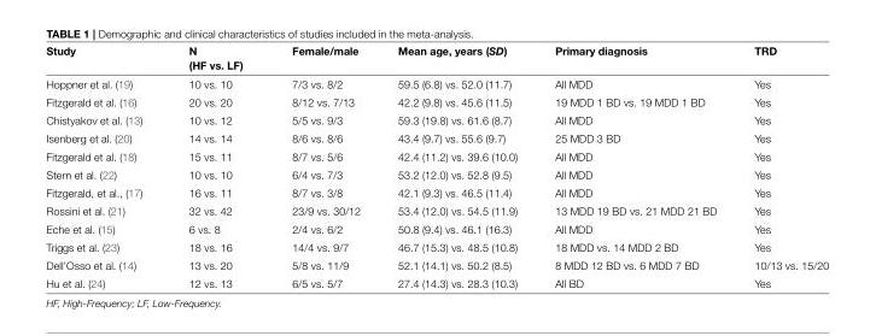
<table><thead><tr><td>Study</td><td>N (HF vs. LF)</td><td>Female/male</td><td>Mean age, years (SD)</td><td>Primary diagnosis</td><td>TRD</td></tr></thead><tbody><tr><td>Hoppner et al. (19)</td><td>10 vs. 10</td><td>7/3 vs. 8/2</td><td>59.5 (6.8) vs. 52.0 (11.7)</td><td>All MDD</td><td>Yes</td></tr><tr><td>Fitzgerald et al. (16)</td><td>20 vs. 20</td><td>8/12 vs. 7/13</td><td>42.2 (9.8) vs. 45.6 (11.5)</td><td>19 MDD 1 BD vs. 19 MDD 1 BD</td><td>Yes</td></tr><tr><td>Chistyakov et al. (13)</td><td>10 vs. 12</td><td>5/5 vs. 9/3</td><td>59.3 (19.8) vs. 61.6 (8.7)</td><td>All MDD</td><td>Yes</td></tr><tr><td>Isenberg et al. (20)</td><td>14 vs. 14</td><td>8/6 vs. 8/6</td><td>43.4 (9.7) vs. 55.6 (9.7)</td><td>25 MDD 3 BD</td><td>Yes</td></tr><tr><td>Fitzgerald et al. (18)</td><td>15 vs. 11</td><td>8/7 vs. 5/6</td><td>42.4 (11.2) vs. 39.6 (10.0)</td><td>All MDD</td><td>Yes</td></tr><tr><td>Stern et al. (22)</td><td>10 vs. 10</td><td>6/4 vs. 7/3</td><td>53.2 (12.0) vs. 52.8 (9.5)</td><td>All MDD</td><td>Yes</td></tr><tr><td>Fitzgerald, et al., (17)</td><td>16 vs. 11</td><td>8/7 vs. 3/8</td><td>42.1 (9.3) vs. 46.5 (11.4)</td><td>All MDD</td><td>Yes</td></tr><tr><td>Rossini et al. (21)</td><td>32 vs. 42</td><td>23/9 vs. 30/12</td><td>53.4 (12.0) vs. 54.5 (11.9)</td><td>13 MDD 19 BD vs. 21 MDD 21 BD</td><td>Yes</td></tr><tr><td>Eche et al. (15)</td><td>6 vs. 8</td><td>2/4 vs. 6/2</td><td>50.8 (9.4) vs. 46.1 (16.3)</td><td>All MDD</td><td>Yes</td></tr><tr><td>Triggs et al. (23)</td><td>18 vs. 16</td><td>14/4 vs. 9/7</td><td>46.7 (15.3) vs. 48.5 (10.8)</td><td>18 MDD vs. 14 MDD 2 BD</td><td>Yes</td></tr><tr><td>Dell’Osso et al. (14)</td><td>13 vs. 20</td><td>5/8 vs. 11/9</td><td>52.1 (14.1) vs. 50.2 (8.5)</td><td>8 MDD 12 BD vs. 6 MDD 7 BD</td><td>10/13 vs. 15/20</td></tr><tr><td>Hu et al. (24)</td><td>12 vs. 13</td><td>6/5 vs. 5/7</td><td>27.4 (14.3) vs. 28.3 (10.3)</td><td>All BD</td><td>Yes</td></tr></tbody></table>